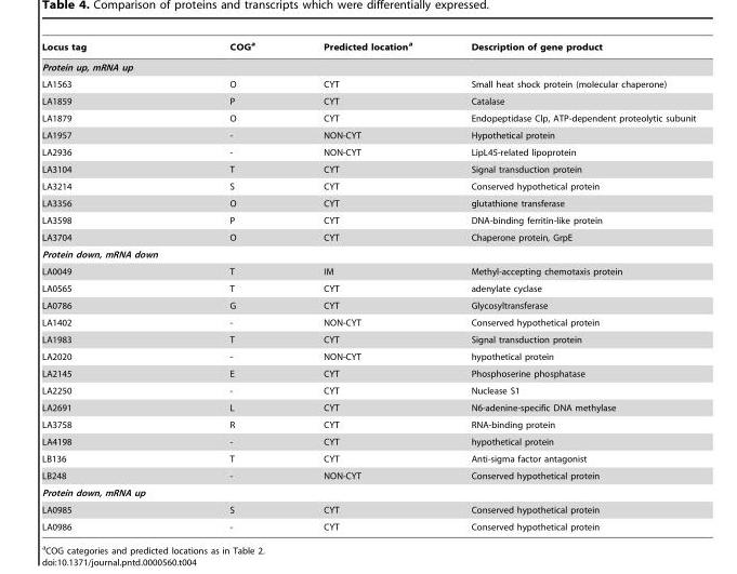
<table><thead><tr><td>Locus tag</td><td>COG<sup>a</sup></td><td>Predicted location<sup>a</sup></td><td>Description of gene product</td></tr></thead><tbody><tr><td colspan="4">Protein up, mRNA up</td></tr><tr><td>LA1563</td><td>O</td><td>CYT</td><td>Small heat shock protein (molecular chaperone)</td></tr><tr><td>LA1859</td><td>P</td><td>CYT</td><td>Catalase</td></tr><tr><td>LA1879</td><td>O</td><td>CYT</td><td>Endopeptidase Clp, ATP-dependent proteolytic subunit</td></tr><tr><td>LA1957</td><td>-</td><td>NON-CYT</td><td>Hypothetical protein</td></tr><tr><td>LA2936</td><td>-</td><td>NON-CYT</td><td>LipL45-related lipoprotein</td></tr><tr><td>LA3104</td><td>T</td><td>CYT</td><td>Signal transduction protein</td></tr><tr><td>LA3214</td><td>S</td><td>CYT</td><td>Conserved hypothetical protein</td></tr><tr><td>LA3356</td><td>O</td><td>CYT</td><td>glutathione transferase</td></tr><tr><td>LA3598</td><td>P</td><td>CYT</td><td>DNA-binding ferritin-like protein</td></tr><tr><td>LA3704</td><td>O</td><td>CYT</td><td>Chaperone protein, GrpE</td></tr><tr><td colspan="4">Protein down, mRNA down</td></tr><tr><td>LA0049</td><td>T</td><td>IM</td><td>Methyl-accepting chemotaxis protein</td></tr><tr><td>LA0565</td><td>T</td><td>CYT</td><td>adenylate cyclase</td></tr><tr><td>LA0786</td><td>G</td><td>CYT</td><td>Glycosyltransferase</td></tr><tr><td>LA1402</td><td>-</td><td>NON-CYT</td><td>Conserved hypothetical protein</td></tr><tr><td>LA1983</td><td>T</td><td>CYT</td><td>Signal transduction protein</td></tr><tr><td>LA2020</td><td>-</td><td>NON-CYT</td><td>hypothetical protein</td></tr><tr><td>LA2145</td><td>E</td><td>CYT</td><td>Phosphoserine phosphatase</td></tr><tr><td>LA2250</td><td>-</td><td>CYT</td><td>Nuclease S1</td></tr><tr><td>LA2691</td><td>L</td><td>CYT</td><td>N6-adenine-specific DNA methylase</td></tr><tr><td>LA3758</td><td>R</td><td>CYT</td><td>RNA-binding protein</td></tr><tr><td>LA4198</td><td>-</td><td>CYT</td><td>hypothetical protein</td></tr><tr><td>LB136</td><td>T</td><td>CYT</td><td>Anti-sigma factor antagonist</td></tr><tr><td>LB248</td><td>-</td><td>NON-CYT</td><td>Conserved hypothetical protein</td></tr><tr><td colspan="4">Protein down, mRNA up</td></tr><tr><td>LA0985</td><td>S</td><td>CYT</td><td>Conserved hypothetical protein</td></tr><tr><td>LA0986</td><td>-</td><td>CYT</td><td>Conserved hypothetical protein</td></tr></tbody></table>